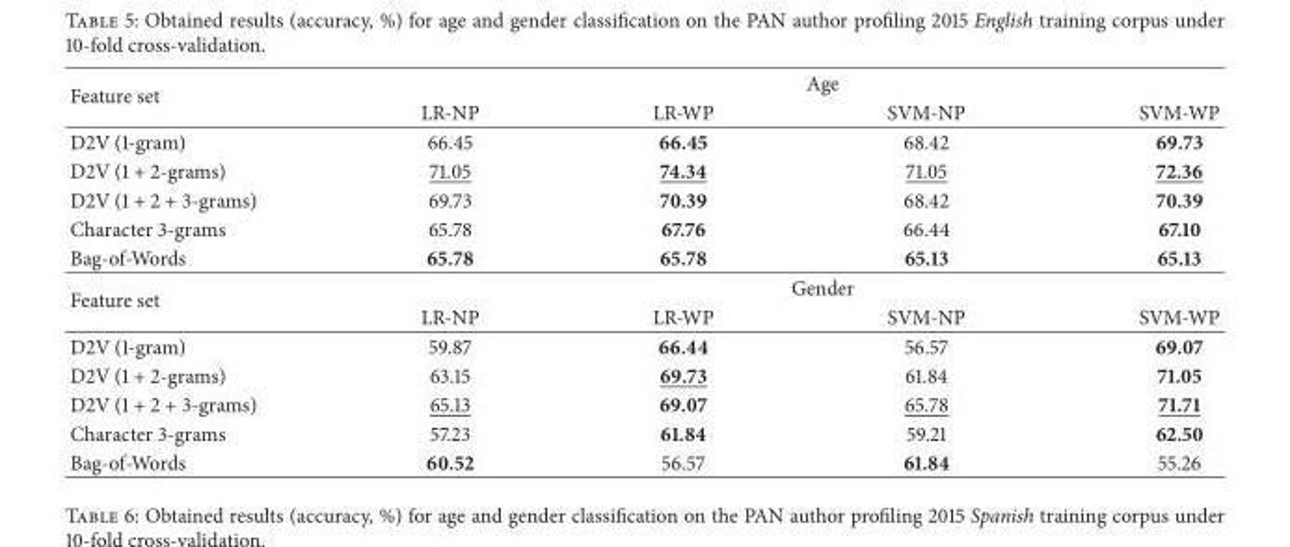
<table><thead><tr><td rowspan="2">Feature set</td><td colspan="4">Age</td></tr><tr><td>LR-NP</td><td>LR-WP</td><td>SVM-NP</td><td>SVM-WP</td></tr></thead><tbody><tr><td>D2V (1-gram)</td><td>66.45</td><td>66.45</td><td>68.42</td><td>69.73</td></tr><tr><td>D2V (1 + 2-grams)</td><td>71.05</td><td>74.34</td><td>71.05</td><td>72.36</td></tr><tr><td>D2V (1 + 2 + 3-grams)</td><td>69.73</td><td>70.39</td><td>68.42</td><td>70.39</td></tr><tr><td>Character 3-grams</td><td>65.78</td><td>67.76</td><td>66.44</td><td>67.10</td></tr><tr><td>Bag-of-Words</td><td>65.78</td><td>65.78</td><td>65.13</td><td>65.13</td></tr><tr><td rowspan="2">Feature set</td><td colspan="4">Gender</td></tr><tr><td>LR-NP</td><td>LR-WP</td><td>SVM-NP</td><td>SVM-WP</td></tr><tr><td>D2V (1-gram)</td><td>59.87</td><td>66.44</td><td>56.57</td><td>69.07</td></tr><tr><td>D2V (1 + 2-grams)</td><td>63.15</td><td>69.73</td><td>61.84</td><td>71.05</td></tr><tr><td>D2V (1 + 2 + 3-grams)</td><td>65.13</td><td>69.07</td><td>65.78</td><td>71.71</td></tr><tr><td>Character 3-grams</td><td>57.23</td><td>61.84</td><td>59.21</td><td>62.50</td></tr><tr><td>Bag-of-Words</td><td>60.52</td><td>56.57</td><td>61.84</td><td>55.26</td></tr></tbody></table>